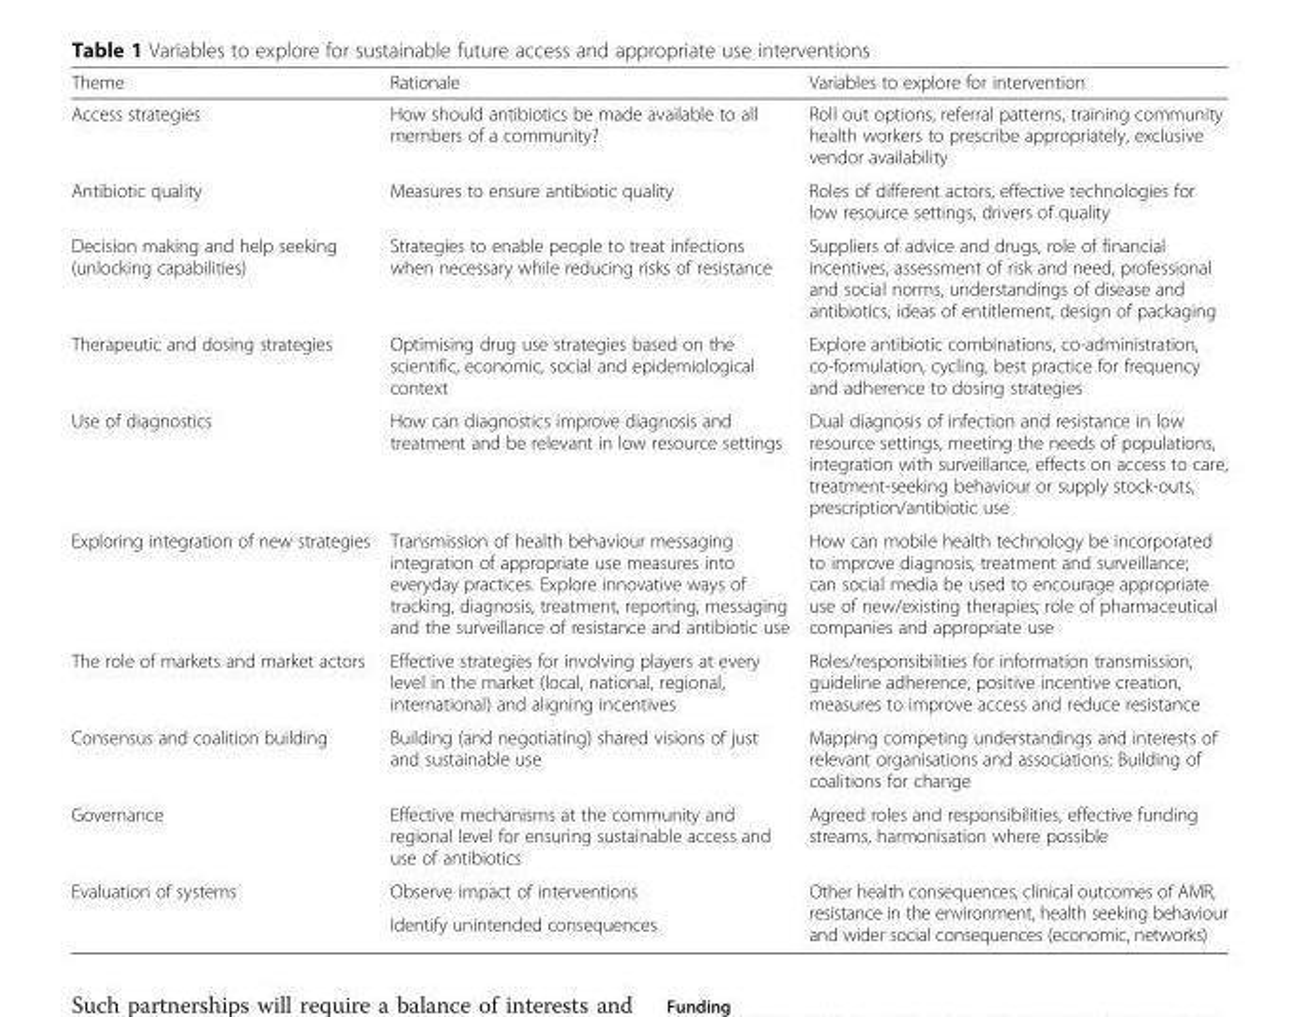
<table><thead><tr><td>Theme</td><td>Rationale</td><td>Variables to explore for intervention</td></tr></thead><tbody><tr><td>Access strategies</td><td>How should antibiotics be made available to all members of a community?</td><td>Roll out options, referral patterns, training community health workers to prescribe appropriately, exclusive vendor availability</td></tr><tr><td>Antibiotic quality</td><td>Measures to ensure antibiotic quality</td><td>Roles of different actors, effective technologies for low resource settings, drivers of quality</td></tr><tr><td>Decision making and help seeking (unlocking capabilities)</td><td>Strategies to enable people to treat infections when necessary while reducing risks of resistance</td><td>Suppliers of advice and drugs, role of financial incentives, assessment of risk and need, professional and social norms, understandings of disease and antibiotics, ideas of entitlement, design of packaging</td></tr><tr><td>Therapeutic and dosing strategies</td><td>Optimising drug use strategies based on the scientific, economic, social and epidemiological context</td><td>Explore antibiotic combinations, co-administration, co-formulation, cycling, best practice for frequency and adherence to dosing strategies</td></tr><tr><td>Use of diagnostics</td><td>How can diagnostics improve diagnosis and treatment and be relevant in low resource settings</td><td>Dual diagnosis of infection and resistance in low resource settings, meeting the needs of populations, integration with surveillance, effects on access to care, treatment-seeking behaviour or supply stock-outs, prescription/antibiotic use</td></tr><tr><td>Exploring integration of new strategies</td><td>Transmission of health behaviour messaging integration of appropriate use measures into everyday practices. Explore innovative ways of tracking, diagnosis, treatment, reporting, messaging and the surveillance of resistance and antibiotic use</td><td>How can mobile health technology be incorporated to improve diagnosis, treatment and surveillance; can social media be used to encourage appropriate use of new/existing therapies; role of pharmaceutical companies and appropriate use</td></tr><tr><td>The role of markets and market actors</td><td>Effective strategies for involving players at every level in the market (local, national, regional, international) and aligning incentives</td><td>Roles/responsibilities for information transmission, guideline adherence, positive incentive creation, measures to improve access and reduce resistance</td></tr><tr><td>Consensus and coalition building</td><td>Building (and negotiating) shared visions of just and sustainable use</td><td>Mapping competing understandings and interests of relevant organisations and associations; Building of coalitions for change</td></tr><tr><td>Governance</td><td>Effective mechanisms at the community and regional level for ensuring sustainable access and use of antibiotics</td><td>Agreed roles and responsibilities, effective funding streams, harmonisation where possible</td></tr><tr><td rowspan="2">Evaluation of systems</td><td>Observe impact of interventions</td><td rowspan="2">Other health consequences, clinical outcomes of AMR, resistance in the environment, health seeking behaviour and wider social consequences (economic, networks)</td></tr><tr><td>Identify unintended consequences</td></tr></tbody></table>